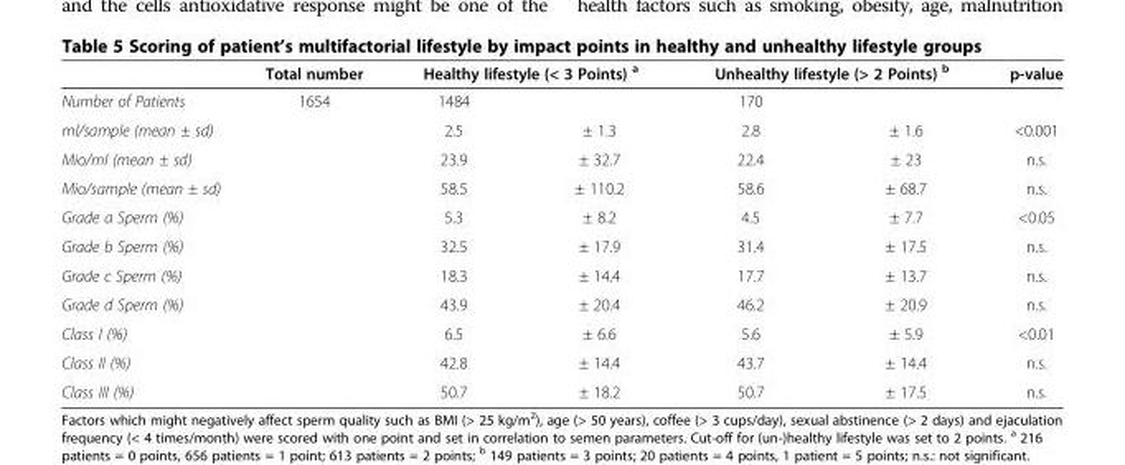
<table><thead><tr><td rowspan="2">Number of Patients</td><td rowspan="2">Total number 1654</td><td colspan="2">Healthy lifestyle (&lt; 3 Points) <sup>a</sup></td><td colspan="2">Unhealthy lifestyle (&gt; 2 Points) <sup>b</sup></td><td rowspan="2">p-value</td></tr><tr><td>1484</td><td></td><td>170</td><td></td></tr></thead><tbody><tr><td>ml/sample (mean ± sd)</td><td></td><td>2.5</td><td>± 1.3</td><td>2.8</td><td>± 1.6</td><td>&lt;0.001</td></tr><tr><td>Mio/ml (mean ± sd)</td><td></td><td>23.9</td><td>± 32.7</td><td>22.4</td><td>± 23</td><td>n.s.</td></tr><tr><td>Mio/sample (mean ± sd)</td><td></td><td>58.5</td><td>± 110.2</td><td>58.6</td><td>± 68.7</td><td>n.s.</td></tr><tr><td>Grade a Sperm (%)</td><td></td><td>5.3</td><td>± 8.2</td><td>4.5</td><td>± 7.7</td><td>&lt;0.05</td></tr><tr><td>Grade b Sperm (%)</td><td></td><td>32.5</td><td>± 17.9</td><td>31.4</td><td>± 17.5</td><td>n.s.</td></tr><tr><td>Grade c Sperm (%)</td><td></td><td>18.3</td><td>± 14.4</td><td>17.7</td><td>± 13.7</td><td>n.s.</td></tr><tr><td>Grade d Sperm (%)</td><td></td><td>43.9</td><td>± 20.4</td><td>46.2</td><td>± 20.9</td><td>n.s.</td></tr><tr><td>Class I (%)</td><td></td><td>6.5</td><td>± 6.6</td><td>5.6</td><td>± 5.9</td><td>&lt;0.01</td></tr><tr><td>Class II (%)</td><td></td><td>42.8</td><td>± 14.4</td><td>43.7</td><td>± 14.4</td><td>n.s.</td></tr><tr><td>Class III (%)</td><td></td><td>50.7</td><td>± 18.2</td><td>50.7</td><td>± 17.5</td><td>n.s.</td></tr></tbody></table>